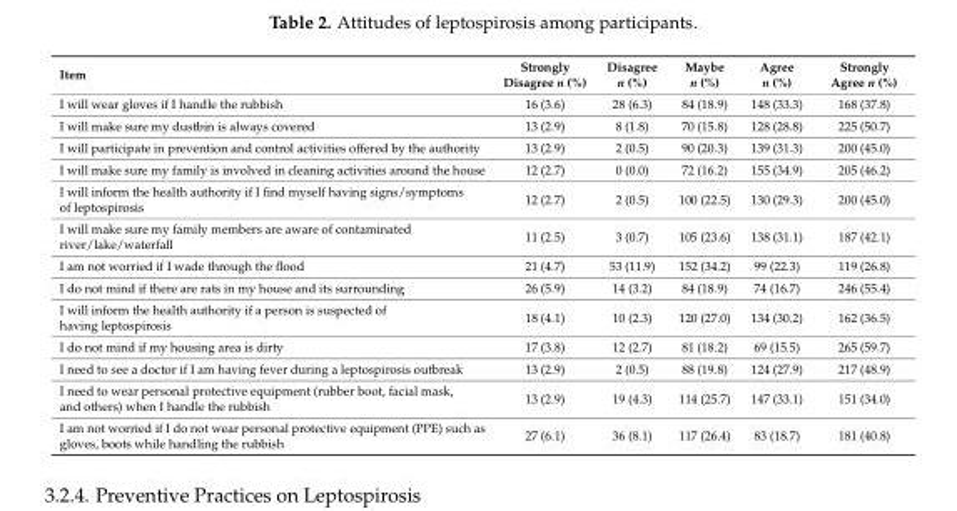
<table><thead><tr><td>Item</td><td>Strongly Disagree n (%)</td><td>Disagree n (%)</td><td>Maybe n (%)</td><td>Agree n (%)</td><td>Strongly Agree n (%)</td></tr></thead><tbody><tr><td>I will wear gloves if I handle the rubbish</td><td>16 (3.6)</td><td>28 (6.3)</td><td>84 (18.9)</td><td>148 (33.3)</td><td>168 (37.8)</td></tr><tr><td>I will make sure my dustbin is always covered</td><td>13 (2.9)</td><td>8 (1.8)</td><td>70 (15.8)</td><td>128 (28.8)</td><td>225 (50.7)</td></tr><tr><td>I will participate in prevention and control activities offered by the authority</td><td>13 (2.9)</td><td>2 (0.5)</td><td>90 (20.3)</td><td>139 (31.3)</td><td>200 (45.0)</td></tr><tr><td>I will make sure my family is involved in cleaning activities around the house</td><td>12 (2.7)</td><td>0 (0.0)</td><td>72 (16.2)</td><td>155 (34.9)</td><td>205 (46.2)</td></tr><tr><td>I will inform the health authority if I find myself having signs/symptoms of leptospirosis</td><td>12 (2.7)</td><td>2 (0.5)</td><td>100 (22.5)</td><td>130 (29.3)</td><td>200 (45.0)</td></tr><tr><td>I will make sure my family members are aware of contaminated river/lake/waterfall</td><td>11 (2.5)</td><td>3 (0.7)</td><td>105 (23.6)</td><td>138 (31.1)</td><td>187 (42.1)</td></tr><tr><td>I am not worried if I wade through the flood</td><td>21 (4.7)</td><td>53 (11.9)</td><td>152 (34.2)</td><td>99 (22.3)</td><td>119 (26.8)</td></tr><tr><td>I do not mind if there are rats in my house and its surrounding</td><td>26 (5.9)</td><td>14 (3.2)</td><td>84 (18.9)</td><td>74 (16.7)</td><td>246 (55.4)</td></tr><tr><td>I will inform the health authority if a person is suspected of having leptospirosis</td><td>18 (4.1)</td><td>10 (2.3)</td><td>120 (27.0)</td><td>134 (30.2)</td><td>162 (36.5)</td></tr><tr><td>I do not mind if my housing area is dirty</td><td>17 (3.8)</td><td>12 (2.7)</td><td>81 (18.2)</td><td>69 (15.5)</td><td>265 (59.7)</td></tr><tr><td>I need to see a doctor if I am having fever during a leptospirosis outbreak</td><td>13 (2.9)</td><td>2 (0.5)</td><td>88 (19.8)</td><td>124 (27.9)</td><td>217 (48.9)</td></tr><tr><td>I need to wear personal protective equipment (rubber boot, facial mask, and others) when I handle the rubbish</td><td>13 (2.9)</td><td>19 (4.3)</td><td>114 (25.7)</td><td>147 (33.1)</td><td>151 (34.0)</td></tr><tr><td>I am not worried if I do not wear personal protective equipment (PPE) such as gloves, boots while handling the rubbish</td><td>27 (6.1)</td><td>36 (8.1)</td><td>117 (26.4)</td><td>83 (18.7)</td><td>181 (40.8)</td></tr></tbody></table>